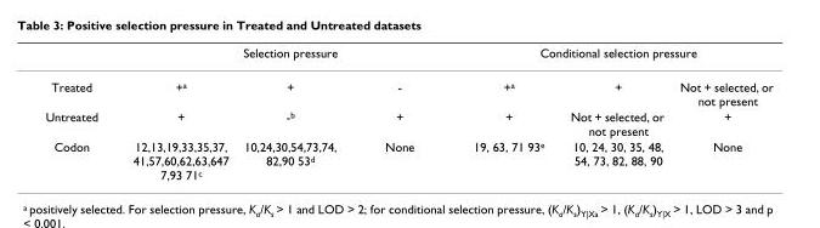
<table><thead><tr><td rowspan="2">Treated</td><td colspan="3">Selection pressure</td><td colspan="3">Conditional selection pressure</td></tr><tr><td>+<sup>a</sup></td><td>+</td><td>-</td><td>+<sup>a</sup></td><td>+</td><td>Not + selected, or not present</td></tr></thead><tbody><tr><td>Untreated</td><td>+</td><td>-<sup>b</sup></td><td>+</td><td>+</td><td>Not + selected, or not present</td><td>+</td></tr><tr><td>Codon</td><td>12,13,19,33,35,37, 41,57,60,62,63,647 7,93 71<sup>c</sup></td><td>10,24,30,54,73,74, 82,90 53<sup>d</sup></td><td>None</td><td>19, 63, 71 93<sup>e</sup></td><td>10, 24, 30, 35, 48, 54, 73, 82, 88, 90</td><td>None</td></tr></tbody></table>